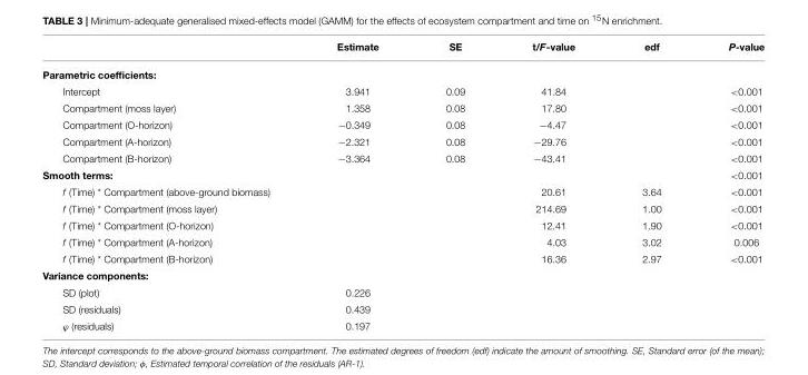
<table><thead><tr><td></td><td>Estimate</td><td>SE</td><td>t/F-value</td><td>edf</td><td>P-value</td></tr></thead><tbody><tr><td colspan="6">Parametric coefficients:</td></tr><tr><td>Intercept</td><td>3.941</td><td>0.09</td><td>41.84</td><td></td><td>&lt;0.001</td></tr><tr><td>Compartment (moss layer)</td><td>1.358</td><td>0.08</td><td>17.80</td><td></td><td>&lt;0.001</td></tr><tr><td>Compartment (O-horizon)</td><td>−0.349</td><td>0.08</td><td>−4.47</td><td></td><td>&lt;0.001</td></tr><tr><td>Compartment (A-horizon)</td><td>−2.321</td><td>0.08</td><td>−29.76</td><td></td><td>&lt;0.001</td></tr><tr><td>Compartment (B-horizon)</td><td>−3.364</td><td>0.08</td><td>−43.41</td><td></td><td>&lt;0.001</td></tr><tr><td>Smooth terms:</td><td></td><td></td><td></td><td></td><td>&lt;0.001</td></tr><tr><td>f (Time) * Compartment (above-ground biomass)</td><td></td><td></td><td>20.61</td><td>3.64</td><td>&lt;0.001</td></tr><tr><td>f (Time) * Compartment (moss layer)</td><td></td><td></td><td>214.69</td><td>1.00</td><td>&lt;0.001</td></tr><tr><td>f (Time) * Compartment (O-horizon)</td><td></td><td></td><td>12.41</td><td>1.90</td><td>&lt;0.001</td></tr><tr><td>f (Time) * Compartment (A-horizon)</td><td></td><td></td><td>4.03</td><td>3.02</td><td>0.006</td></tr><tr><td>f (Time) * Compartment (B-horizon)</td><td></td><td></td><td>16.36</td><td>2.97</td><td>&lt;0.001</td></tr><tr><td colspan="6">Variance components:</td></tr><tr><td>SD (plot)</td><td>0.226</td><td></td><td></td><td></td><td></td></tr><tr><td>SD (residuals)</td><td>0.439</td><td></td><td></td><td></td><td></td></tr><tr><td>ϕ (residuals)</td><td>0.197</td><td></td><td></td><td></td><td></td></tr></tbody></table>